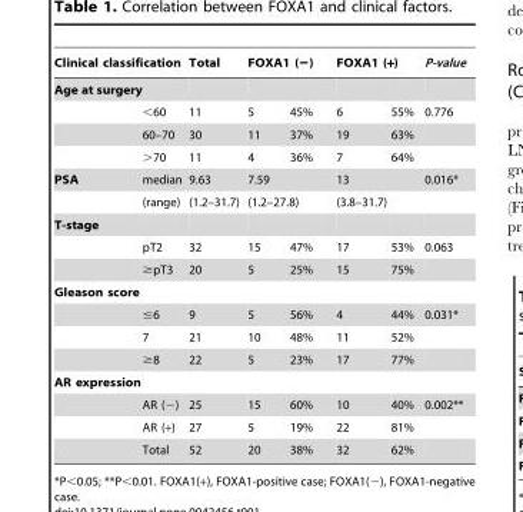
<table><thead><tr><td colspan="2">Clinical classification</td><td rowspan="2">Total</td><td colspan="2">FOXA1 (−)</td><td colspan="2">FOXA1 (+)</td><td rowspan="2">P-value</td></tr><tr><td>Age at surgery</td><td></td><td></td><td></td><td></td><td></td></tr></thead><tbody><tr><td></td><td>&lt;60</td><td>11</td><td>5</td><td>45%</td><td>6</td><td>55%</td><td>0.776</td></tr><tr><td></td><td>60–70</td><td>30</td><td>11</td><td>37%</td><td>19</td><td>63%</td><td></td></tr><tr><td></td><td>&gt;70</td><td>11</td><td>4</td><td>36%</td><td>7</td><td>64%</td><td></td></tr><tr><td rowspan="2">PSA</td><td>median</td><td>9.63</td><td colspan="2">7.59</td><td colspan="2">13</td><td>0.016*</td></tr><tr><td>(range)</td><td>(1.2–31.7)</td><td colspan="2">(1.2–27.8)</td><td colspan="2">(3.8–31.7)</td><td></td></tr><tr><td colspan="8">T-stage</td></tr><tr><td></td><td>pT2</td><td>32</td><td>15</td><td>47%</td><td>17</td><td>53%</td><td>0.063</td></tr><tr><td></td><td>≥pT3</td><td>20</td><td>5</td><td>25%</td><td>15</td><td>75%</td><td></td></tr><tr><td colspan="8">Gleason score</td></tr><tr><td></td><td>≤6</td><td>9</td><td>5</td><td>56%</td><td>4</td><td>44%</td><td>0.031*</td></tr><tr><td></td><td>7</td><td>21</td><td>10</td><td>48%</td><td>11</td><td>52%</td><td></td></tr><tr><td></td><td>≥8</td><td>22</td><td>5</td><td>23%</td><td>17</td><td>77%</td><td></td></tr><tr><td colspan="8">AR expression</td></tr><tr><td></td><td>AR (−)</td><td>25</td><td>15</td><td>60%</td><td>10</td><td>40%</td><td>0.002**</td></tr><tr><td></td><td>AR (+)</td><td>27</td><td>5</td><td>19%</td><td>22</td><td>81%</td><td></td></tr><tr><td></td><td>Total</td><td>52</td><td>20</td><td>38%</td><td>32</td><td>62%</td><td></td></tr></tbody></table>